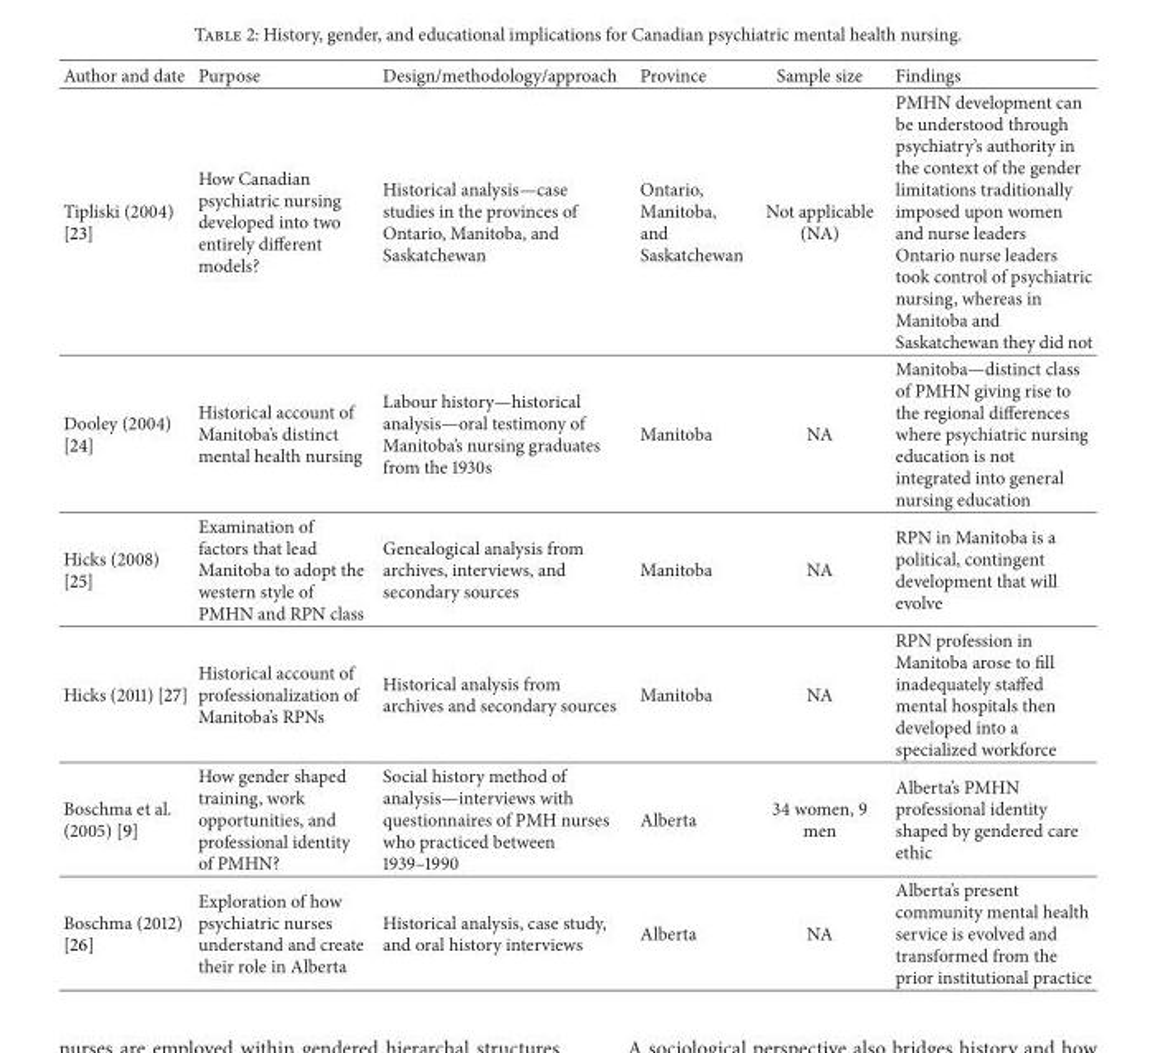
<table><thead><tr><td>Author and date</td><td>Purpose</td><td>Design/methodology/approach</td><td>Province</td><td>Sample size</td><td>Findings</td></tr></thead><tbody><tr><td>Tipliski (2004) [23]</td><td>How Canadian psychiatric nursing developed into two entirely different models?</td><td>Historical analysis—case studies in the provinces of Ontario, Manitoba, and Saskatchewan</td><td>Ontario, Manitoba, and Saskatchewan</td><td>Not applicable (NA)</td><td>PMHN development can be understood through psychiatry’s authority in the context of the gender limitations traditionally imposed upon women and nurse leaders Ontario nurse leaders took control of psychiatric nursing, whereas in Manitoba and Saskatchewan they did not</td></tr><tr><td>Dooley (2004) [24]</td><td>Historical account of Manitoba’s distinct mental health nursing</td><td>Labour history—historical analysis—oral testimony of Manitoba’s nursing graduates from the 1930s</td><td>Manitoba</td><td>NA</td><td>Manitoba—distinct class of PMHN giving rise to the regional differences where psychiatric nursing education is not integrated into general nursing education</td></tr><tr><td>Hicks (2008) [25]</td><td>Examination of factors that lead Manitoba to adopt the western style of PMHN and RPN class</td><td>Genealogical analysis from archives, interviews, and secondary sources</td><td>Manitoba</td><td>NA</td><td>RPN in Manitoba is a political, contingent development that will evolve</td></tr><tr><td>Hicks (2011) [27]</td><td>Historical account of professionalization of Manitoba’s RPNs</td><td>Historical analysis from archives and secondary sources</td><td>Manitoba</td><td>NA</td><td>RPN profession in Manitoba arose to fill inadequately staffed mental hospitals then developed into a specialized workforce</td></tr><tr><td>Boschma et al. (2005) [9]</td><td>How gender shaped training, work opportunities, and professional identity of PMHN?</td><td>Social history method of analysis—interviews with questionnaires of PMH nurses who practiced between 1939–1990</td><td>Alberta</td><td>34 women, 9 men</td><td>Alberta’s PMHN professional identity shaped by gendered care ethic</td></tr><tr><td>Boschma (2012) [26]</td><td>Exploration of how psychiatric nurses understand and create their role in Alberta</td><td>Historical analysis, case study, and oral history interviews</td><td>Alberta</td><td>NA</td><td>Alberta’s present community mental health service is evolved and transformed from the prior institutional practice</td></tr></tbody></table>